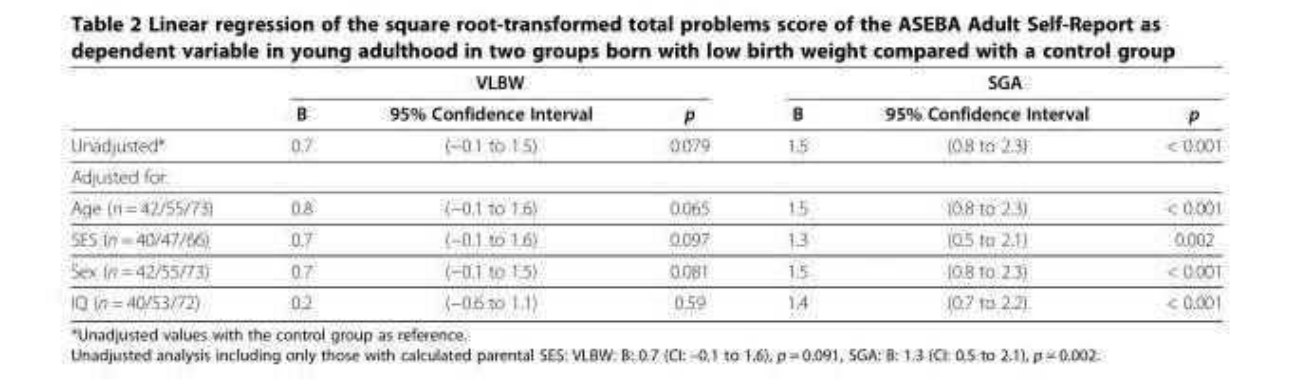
<table><thead><tr><td rowspan="2"></td><td colspan="3">VLBW</td><td colspan="3">SGA</td></tr><tr><td>B</td><td>95% Confidence Interval</td><td>p</td><td>B</td><td>95% Confidence Interval</td><td>p</td></tr></thead><tbody><tr><td>Unadjusted*</td><td>0.7</td><td>(−0.1 to 1.5)</td><td>0.079</td><td>1.5</td><td>(0.8 to 2.3)</td><td>&lt; 0.001</td></tr><tr><td colspan="7">Adjusted for:</td></tr><tr><td>Age (n = 42/55/73)</td><td>0.8</td><td>(−0.1 to 1.6)</td><td>0.065</td><td>1.5</td><td>(0.8 to 2.3)</td><td>&lt; 0.001</td></tr><tr><td>SES (n = 40/47/66)</td><td>0.7</td><td>(−0.1 to 1.6)</td><td>0.097</td><td>1.3</td><td>(0.5 to 2.1)</td><td>0.002</td></tr><tr><td>Sex (n = 42/55/73)</td><td>0.7</td><td>(−0.1 to 1.5)</td><td>0.081</td><td>1.5</td><td>(0.8 to 2.3)</td><td>&lt; 0.001</td></tr><tr><td>IQ (n = 40/53/72)</td><td>0.2</td><td>(−0.6 to 1.1)</td><td>0.59</td><td>1.4</td><td>(0.7 to 2.2)</td><td>&lt; 0.001</td></tr></tbody></table>